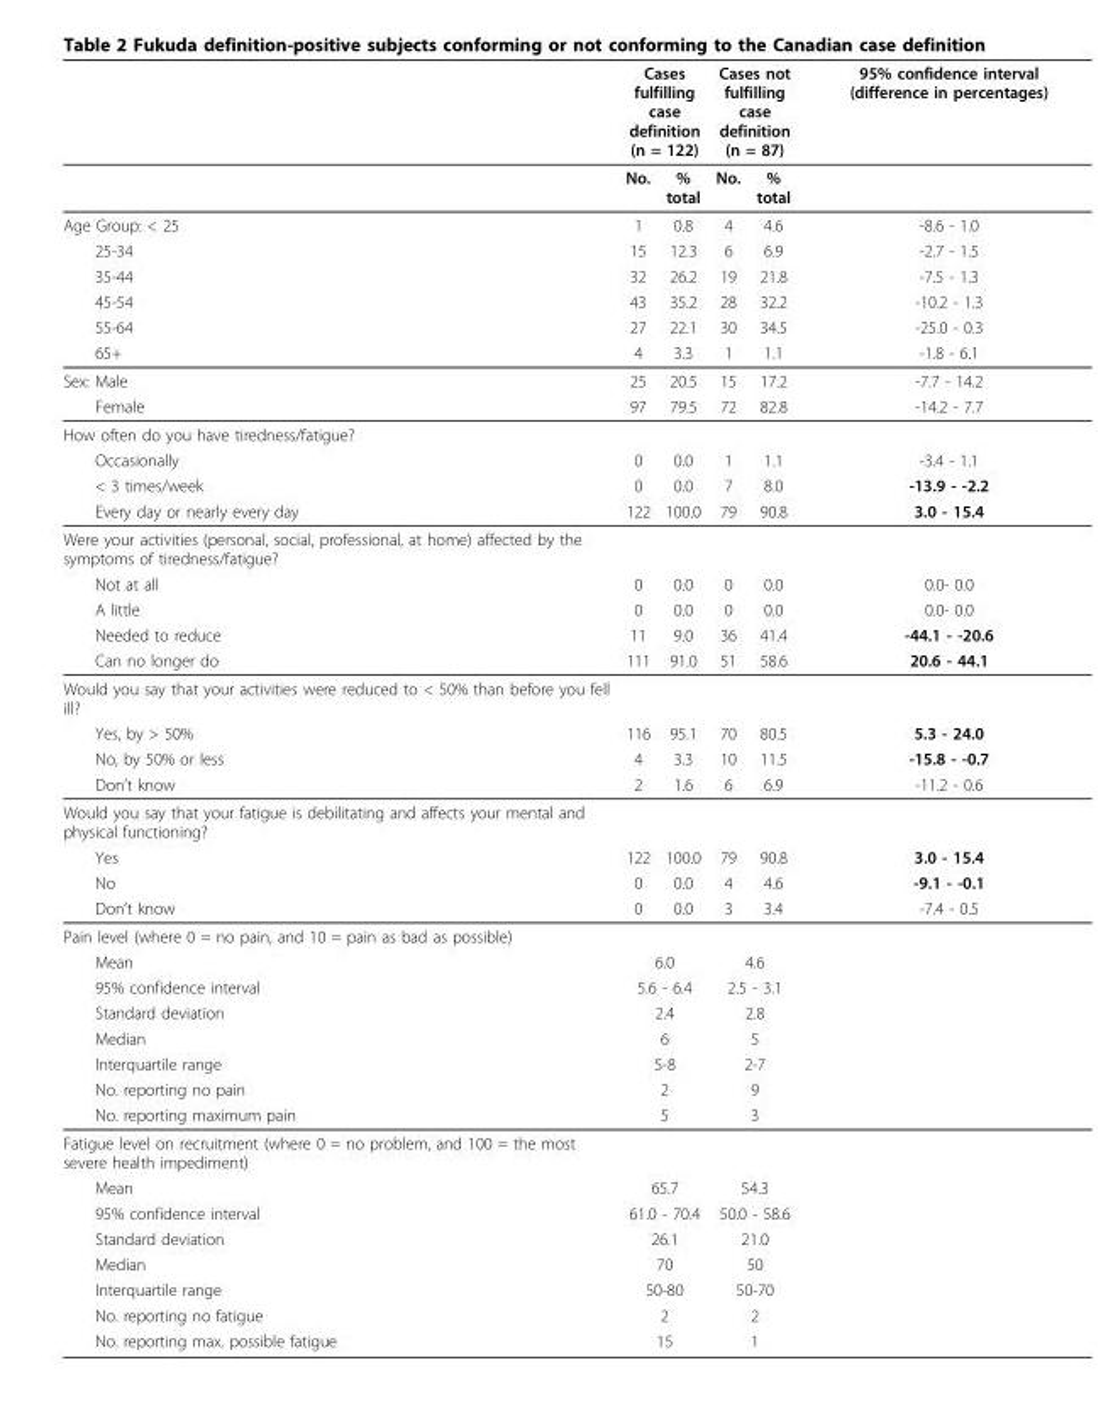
<table><thead><tr><td rowspan="2"></td><td colspan="2">Cases fulfilling case definition (n = 122)</td><td colspan="2">Cases not fulfilling case definition (n = 87)</td><td rowspan="2">95% confidence interval (difference in percentages)</td></tr><tr><td>No.</td><td>% total</td><td>No.</td><td>% total</td></tr></thead><tbody><tr><td>Age Group: &lt; 25</td><td>1</td><td>0.8</td><td>4</td><td>4.6</td><td>-8.6 - 1.0</td></tr><tr><td>25-34</td><td>15</td><td>12.3</td><td>6</td><td>6.9</td><td>-2.7 - 1.5</td></tr><tr><td>35-44</td><td>32</td><td>26.2</td><td>19</td><td>21.8</td><td>-7.5 - 1.3</td></tr><tr><td>45-54</td><td>43</td><td>35.2</td><td>28</td><td>32.2</td><td>-10.2 - 1.3</td></tr><tr><td>55-64</td><td>27</td><td>22.1</td><td>30</td><td>34.5</td><td>-25.0 - 0.3</td></tr><tr><td>65+</td><td>4</td><td>3.3</td><td>1</td><td>1.1</td><td>-1.8 - 6.1</td></tr><tr><td>Sex: Male</td><td>25</td><td>20.5</td><td>15</td><td>17.2</td><td>-7.7 - 14.2</td></tr><tr><td>Female</td><td>97</td><td>79.5</td><td>72</td><td>82.8</td><td>-14.2 - 7.7</td></tr><tr><td colspan="6">How often do you have tiredness/fatigue?</td></tr><tr><td>Occasionally</td><td>0</td><td>0.0</td><td>1</td><td>1.1</td><td>-3.4 - 1.1</td></tr><tr><td>&lt; 3 times/week</td><td>0</td><td>0.0</td><td>7</td><td>8.0</td><td>-13.9 - -2.2</td></tr><tr><td>Every day or nearly every day</td><td>122</td><td>100.0</td><td>79</td><td>90.8</td><td>3.0 - 15.4</td></tr><tr><td colspan="6">Were your activities (personal, social, professional, at home) affected by the symptoms of tiredness/fatigue?</td></tr><tr><td>Not at all</td><td>0</td><td>0.0</td><td>0</td><td>0.0</td><td>0.0- 0.0</td></tr><tr><td>A little</td><td>0</td><td>0.0</td><td>0</td><td>0.0</td><td>0.0- 0.0</td></tr><tr><td>Needed to reduce</td><td>11</td><td>9.0</td><td>36</td><td>41.4</td><td>-44.1 - -20.6</td></tr><tr><td>Can no longer do</td><td>111</td><td>91.0</td><td>51</td><td>58.6</td><td>20.6 - 44.1</td></tr><tr><td colspan="6">Would you say that your activities were reduced to &lt; 50% than before you fell ill?</td></tr><tr><td>Yes, by &gt; 50%</td><td>116</td><td>95.1</td><td>70</td><td>80.5</td><td>5.3 - 24.0</td></tr><tr><td>No, by 50% or less</td><td>4</td><td>3.3</td><td>10</td><td>11.5</td><td>-15.8 - -0.7</td></tr><tr><td>Don’t know</td><td>2</td><td>1.6</td><td>6</td><td>6.9</td><td>-11.2 - 0.6</td></tr><tr><td colspan="6">Would you say that your fatigue is debilitating and affects your mental and physical functioning?</td></tr><tr><td>Yes</td><td>122</td><td>100.0</td><td>79</td><td>90.8</td><td>3.0 - 15.4</td></tr><tr><td>No</td><td>0</td><td>0.0</td><td>4</td><td>4.6</td><td>-9.1 - -0.1</td></tr><tr><td>Don’t know</td><td>0</td><td>0.0</td><td>3</td><td>3.4</td><td>-7.4 - 0.5</td></tr><tr><td colspan="6">Pain level (where 0 = no pain, and 10 = pain as bad as possible)</td></tr><tr><td>Mean</td><td colspan="2">6.0</td><td colspan="2">4.6</td><td></td></tr><tr><td>95% confidence interval</td><td colspan="2">5.6 - 6.4</td><td colspan="2">2.5 - 3.1</td><td></td></tr><tr><td>Standard deviation</td><td colspan="2">2.4</td><td colspan="2">2.8</td><td></td></tr><tr><td>Median</td><td colspan="2">6</td><td colspan="2">5</td><td></td></tr><tr><td>Interquartile range</td><td colspan="2">5-8</td><td colspan="2">2-7</td><td></td></tr><tr><td>No. reporting no pain</td><td colspan="2">2</td><td colspan="2">9</td><td></td></tr><tr><td>No. reporting maximum pain</td><td colspan="2">5</td><td colspan="2">3</td><td></td></tr><tr><td colspan="6">Fatigue level on recruitment (where 0 = no problem, and 100 = the most severe health impediment)</td></tr><tr><td>Mean</td><td colspan="2">65.7</td><td colspan="2">54.3</td><td></td></tr><tr><td>95% confidence interval</td><td colspan="2">61.0 - 70.4</td><td colspan="2">50.0 - 58.6</td><td></td></tr><tr><td>Standard deviation</td><td colspan="2">26.1</td><td colspan="2">21.0</td><td></td></tr><tr><td>Median</td><td colspan="2">70</td><td colspan="2">50</td><td></td></tr><tr><td>Interquartile range</td><td colspan="2">50-80</td><td colspan="2">50-70</td><td></td></tr><tr><td>No. reporting no fatigue</td><td colspan="2">2</td><td colspan="2">2</td><td></td></tr><tr><td>No. reporting max. possible fatigue</td><td colspan="2">15</td><td colspan="2">1</td><td></td></tr></tbody></table>